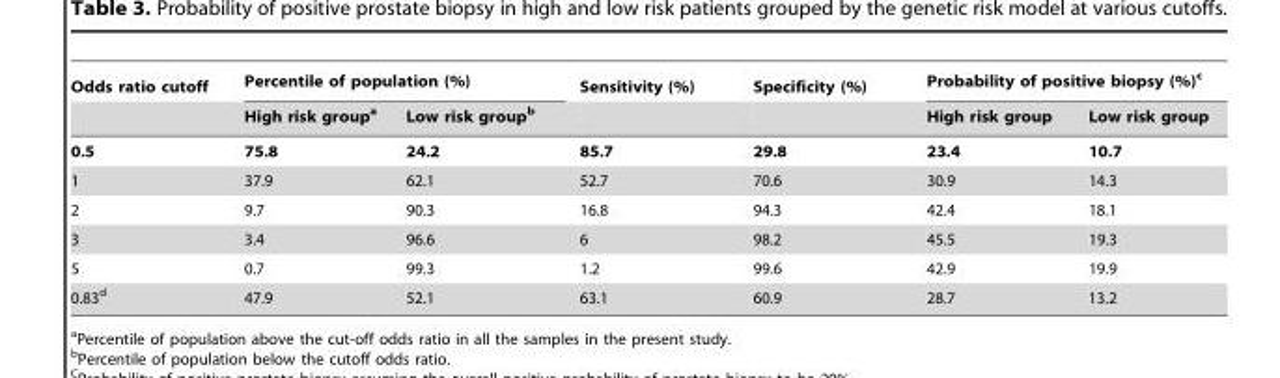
<table><thead><tr><td rowspan="2">Odds ratio cutoff</td><td colspan="2">Percentile of population (%)</td><td rowspan="2">Sensitivity (%)</td><td rowspan="2">Specificity (%)</td><td colspan="2">Probability of positive biopsy (%)<sup>c</sup></td></tr><tr><td>High risk group<sup>a</sup></td><td>Low risk group<sup>b</sup></td><td>High risk group</td><td>Low risk group</td></tr></thead><tbody><tr><td>0.5</td><td>75.8</td><td>24.2</td><td>85.7</td><td>29.8</td><td>23.4</td><td>10.7</td></tr><tr><td>1</td><td>37.9</td><td>62.1</td><td>52.7</td><td>70.6</td><td>30.9</td><td>14.3</td></tr><tr><td>2</td><td>9.7</td><td>90.3</td><td>16.8</td><td>94.3</td><td>42.4</td><td>18.1</td></tr><tr><td>3</td><td>3.4</td><td>96.6</td><td>6</td><td>98.2</td><td>45.5</td><td>19.3</td></tr><tr><td>5</td><td>0.7</td><td>99.3</td><td>1.2</td><td>99.6</td><td>42.9</td><td>19.9</td></tr><tr><td>0.83<sup>d</sup></td><td>47.9</td><td>52.1</td><td>63.1</td><td>60.9</td><td>28.7</td><td>13.2</td></tr></tbody></table>